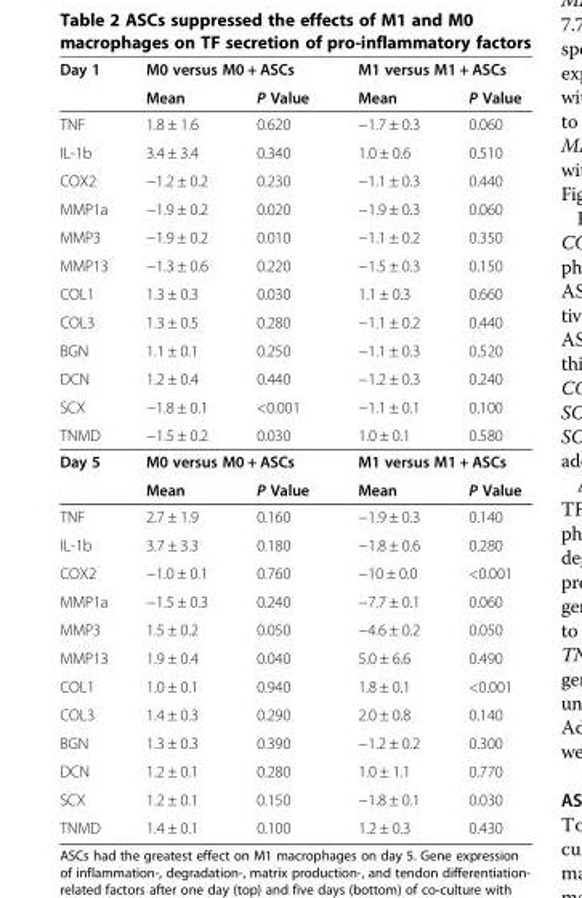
<table><tbody><tr><td rowspan="2">Day 1</td><td colspan="2">M0 versus M0 + ASCs</td><td colspan="2">M1 versus M1 + ASCs</td></tr><tr><td>Mean</td><td>P Value</td><td>Mean</td><td>P Value</td></tr><tr><td>TNF</td><td>1.8 ± 1.6</td><td>0.620</td><td>−1.7 ± 0.3</td><td>0.060</td></tr><tr><td>IL-1b</td><td>3.4 ± 3.4</td><td>0.340</td><td>1.0 ± 0.6</td><td>0.510</td></tr><tr><td>COX2</td><td>−1.2 ± 0.2</td><td>0.230</td><td>−1.1 ± 0.3</td><td>0.440</td></tr><tr><td>MMP1a</td><td>−1.9 ± 0.2</td><td>0.020</td><td>−1.9 ± 0.3</td><td>0.060</td></tr><tr><td>MMP3</td><td>−1.9 ± 0.2</td><td>0.010</td><td>−1.1 ± 0.2</td><td>0.350</td></tr><tr><td>MMP13</td><td>−1.3 ± 0.6</td><td>0.220</td><td>−1.5 ± 0.3</td><td>0.150</td></tr><tr><td>COL1</td><td>1.3 ± 0.3</td><td>0.030</td><td>1.1 ± 0.3</td><td>0.660</td></tr><tr><td>COL3</td><td>1.3 ± 0.5</td><td>0.280</td><td>−1.1 ± 0.2</td><td>0.440</td></tr><tr><td>BGN</td><td>1.1 ± 0.1</td><td>0.250</td><td>−1.1 ± 0.3</td><td>0.520</td></tr><tr><td>DCN</td><td>1.2 ± 0.4</td><td>0.440</td><td>−1.2 ± 0.3</td><td>0.240</td></tr><tr><td>SCX</td><td>−1.8 ± 0.1</td><td>&lt;0.001</td><td>−1.1 ± 0.1</td><td>0.100</td></tr><tr><td>TNMD</td><td>−1.5 ± 0.2</td><td>0.030</td><td>1.0 ± 0.1</td><td>0.580</td></tr><tr><td rowspan="2">Day 5</td><td colspan="2">M0 versus M0 + ASCs</td><td colspan="2">M1 versus M1 + ASCs</td></tr><tr><td>Mean</td><td>P Value</td><td>Mean</td><td>P Value</td></tr><tr><td>TNF</td><td>2.7 ± 1.9</td><td>0.160</td><td>−1.9 ± 0.3</td><td>0.140</td></tr><tr><td>IL-1b</td><td>3.7 ± 3.3</td><td>0.180</td><td>−1.8 ± 0.6</td><td>0.280</td></tr><tr><td>COX2</td><td>−1.0 ± 0.1</td><td>0.760</td><td>−10 ± 0.0</td><td>&lt;0.001</td></tr><tr><td>MMP1a</td><td>−1.5 ± 0.3</td><td>0.240</td><td>−7.7 ± 0.1</td><td>0.060</td></tr><tr><td>MMP3</td><td>1.5 ± 0.2</td><td>0.050</td><td>−4.6 ± 0.2</td><td>0.050</td></tr><tr><td>MMP13</td><td>1.9 ± 0.4</td><td>0.040</td><td>5.0 ± 6.6</td><td>0.490</td></tr><tr><td>COL1</td><td>1.0 ± 0.1</td><td>0.940</td><td>1.8 ± 0.1</td><td>&lt;0.001</td></tr><tr><td>COL3</td><td>1.4 ± 0.3</td><td>0.290</td><td>2.0 ± 0.8</td><td>0.140</td></tr><tr><td>BGN</td><td>1.3 ± 0.3</td><td>0.390</td><td>−1.2 ± 0.2</td><td>0.300</td></tr><tr><td>DCN</td><td>1.2 ± 0.1</td><td>0.280</td><td>1.0 ± 1.1</td><td>0.770</td></tr><tr><td>SCX</td><td>1.2 ± 0.1</td><td>0.150</td><td>−1.8 ± 0.1</td><td>0.030</td></tr><tr><td>TNMD</td><td>1.4 ± 0.1</td><td>0.100</td><td>1.2 ± 0.3</td><td>0.430</td></tr></tbody></table>